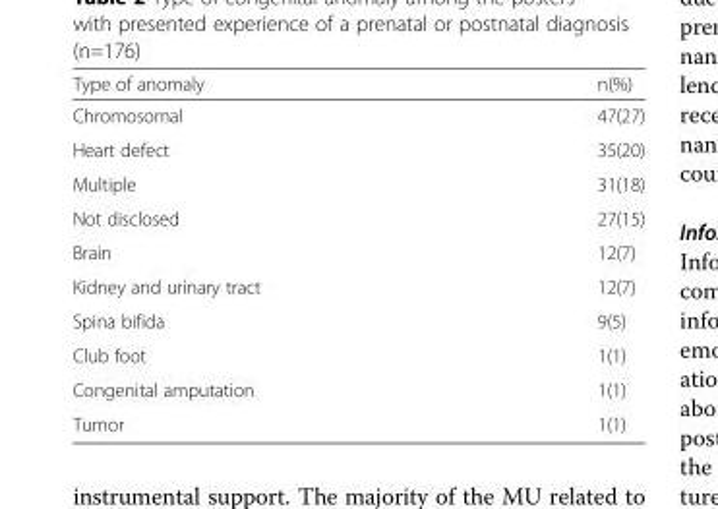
<table><thead><tr><td>Type of anomaly</td><td>n(%)</td></tr></thead><tbody><tr><td>Chromosomal</td><td>47(27)</td></tr><tr><td>Heart defect</td><td>35(20)</td></tr><tr><td>Multiple</td><td>31(18)</td></tr><tr><td>Not disclosed</td><td>27(15)</td></tr><tr><td>Brain</td><td>12(7)</td></tr><tr><td>Kidney and urinary tract</td><td>12(7)</td></tr><tr><td>Spina bifida</td><td>9(5)</td></tr><tr><td>Club foot</td><td>1(1)</td></tr><tr><td>Congenital amputation</td><td>1(1)</td></tr><tr><td>Tumor</td><td>1(1)</td></tr></tbody></table>